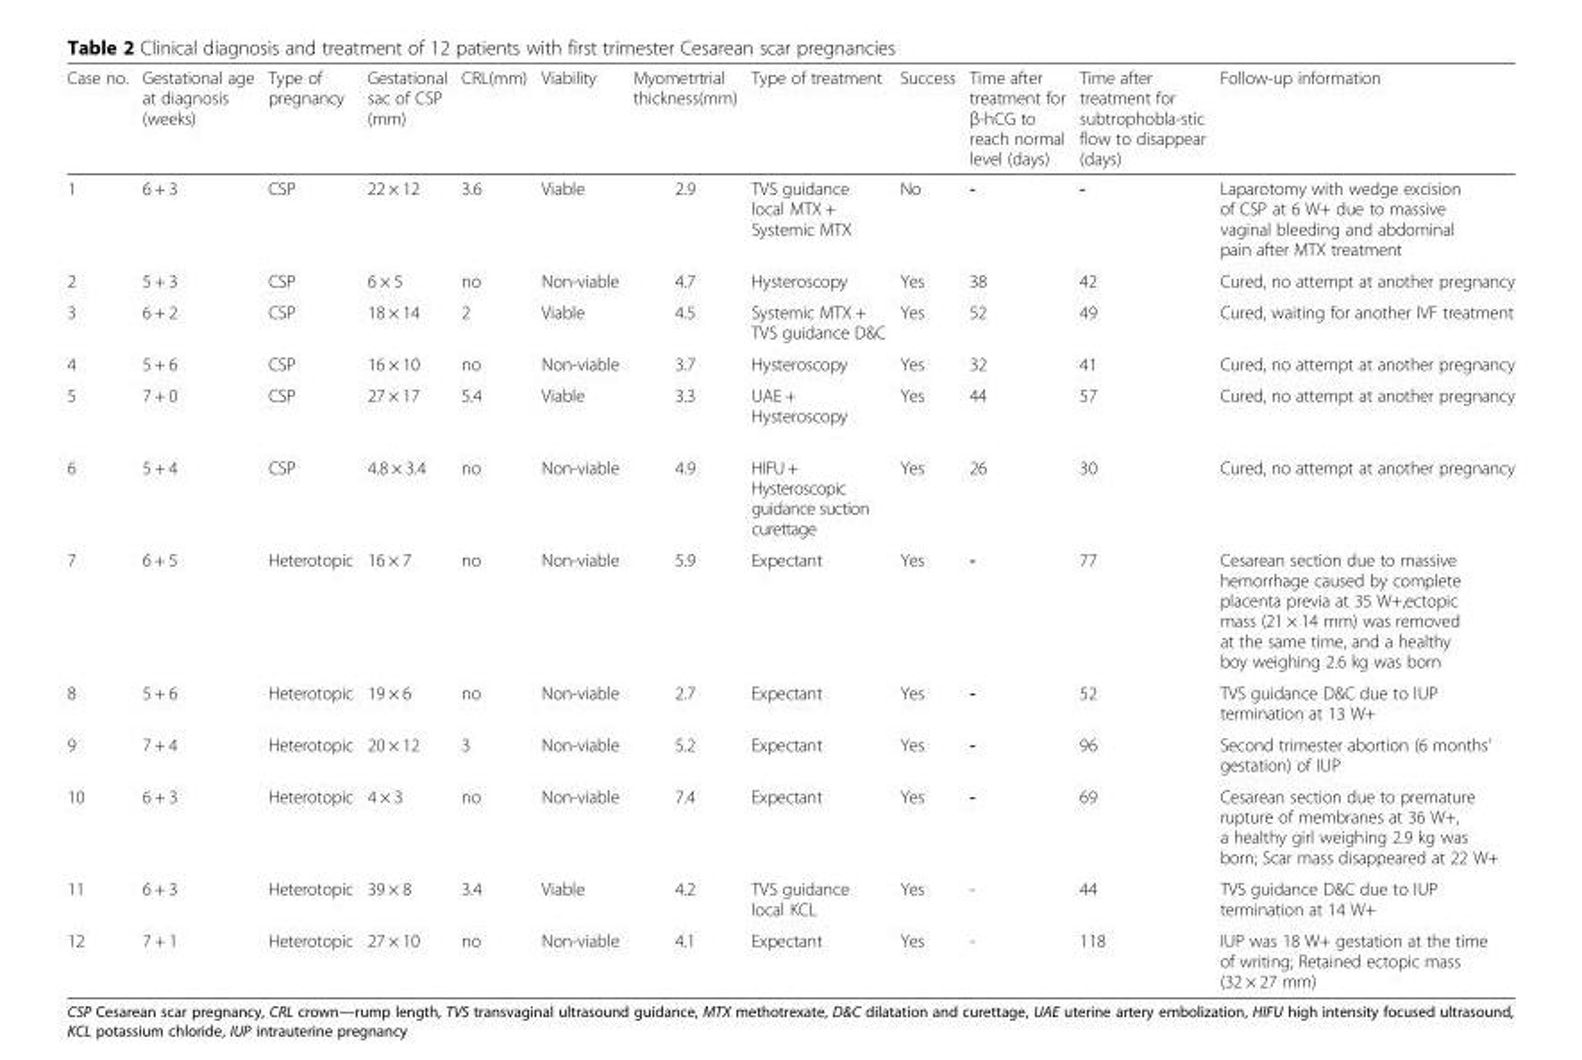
<table><thead><tr><td>Case no.</td><td>Gestational age at diagnosis (weeks)</td><td>Type of pregnancy</td><td>Gestational sac of CSP (mm)</td><td>CRL(mm)</td><td>Viability</td><td>Myometrtrial thickness(mm)</td><td>Type of treatment</td><td>Success</td><td>Time after treatment for β-hCG to reach normal level (days)</td><td>Time after treatment for subtrophobla-stic flow to disappear (days)</td><td>Follow-up information</td></tr></thead><tbody><tr><td>1</td><td>6 + 3</td><td>CSP</td><td>22 × 12</td><td>3.6</td><td>Viable</td><td>2.9</td><td>TVS guidance local MTX + Systemic MTX</td><td>No</td><td>-</td><td>-</td><td>Laparotomy with wedge excision of CSP at 6 W+ due to massive vaginal bleeding and abdominal pain after MTX treatment</td></tr><tr><td>2</td><td>5 + 3</td><td>CSP</td><td>6 × 5</td><td>no</td><td>Non-viable</td><td>4.7</td><td>Hysteroscopy</td><td>Yes</td><td>38</td><td>42</td><td>Cured, no attempt at another pregnancy</td></tr><tr><td>3</td><td>6 + 2</td><td>CSP</td><td>18 × 14</td><td>2</td><td>Viable</td><td>4.5</td><td>Systemic MTX + TVS guidance D&amp;C</td><td>Yes</td><td>52</td><td>49</td><td>Cured, waiting for another IVF treatment</td></tr><tr><td>4</td><td>5 + 6</td><td>CSP</td><td>16 × 10</td><td>no</td><td>Non-viable</td><td>3.7</td><td>Hysteroscopy</td><td>Yes</td><td>32</td><td>41</td><td>Cured, no attempt at another pregnancy</td></tr><tr><td>5</td><td>7 + 0</td><td>CSP</td><td>27 × 17</td><td>5.4</td><td>Viable</td><td>3.3</td><td>UAE + Hysteroscopy</td><td>Yes</td><td>44</td><td>57</td><td>Cured, no attempt at another pregnancy</td></tr><tr><td>6</td><td>5 + 4</td><td>CSP</td><td>4.8 × 3.4</td><td>no</td><td>Non-viable</td><td>4.9</td><td>HIFU + Hysteroscopic guidance suction curettage</td><td>Yes</td><td>26</td><td>30</td><td>Cured, no attempt at another pregnancy</td></tr><tr><td>7</td><td>6 + 5</td><td>Heterotopic</td><td>16 × 7</td><td>no</td><td>Non-viable</td><td>5.9</td><td>Expectant</td><td>Yes</td><td>-</td><td>77</td><td>Cesarean section due to massive hemorrhage caused by complete placenta previa at 35 W+,ectopic mass (21 × 14 mm) was removed at the same time, and a healthy boy weighing 2.6 kg was born</td></tr><tr><td>8</td><td>5 + 6</td><td>Heterotopic</td><td>19 × 6</td><td>no</td><td>Non-viable</td><td>2.7</td><td>Expectant</td><td>Yes</td><td>-</td><td>52</td><td>TVS guidance D&amp;C due to IUP termination at 13 W+</td></tr><tr><td>9</td><td>7 + 4</td><td>Heterotopic</td><td>20 × 12</td><td>3</td><td>Non-viable</td><td>5.2</td><td>Expectant</td><td>Yes</td><td>-</td><td>96</td><td>Second trimester abortion (6 months’ gestation) of IUP</td></tr><tr><td>10</td><td>6 + 3</td><td>Heterotopic</td><td>4 × 3</td><td>no</td><td>Non-viable</td><td>7.4</td><td>Expectant</td><td>Yes</td><td>-</td><td>69</td><td>Cesarean section due to premature rupture of membranes at 36 W+, a healthy girl weighing 2.9 kg was born; Scar mass disappeared at 22 W+</td></tr><tr><td>11</td><td>6 + 3</td><td>Heterotopic</td><td>39 × 8</td><td>3.4</td><td>Viable</td><td>4.2</td><td>TVS guidance local KCL</td><td>Yes</td><td>-</td><td>44</td><td>TVS guidance D&amp;C due to IUP termination at 14 W+</td></tr><tr><td>12</td><td>7 + 1</td><td>Heterotopic</td><td>27 × 10</td><td>no</td><td>Non-viable</td><td>4.1</td><td>Expectant</td><td>Yes</td><td>-</td><td>118</td><td>IUP was 18 W+ gestation at the time of writing; Retained ectopic mass (32 × 27 mm)</td></tr></tbody></table>